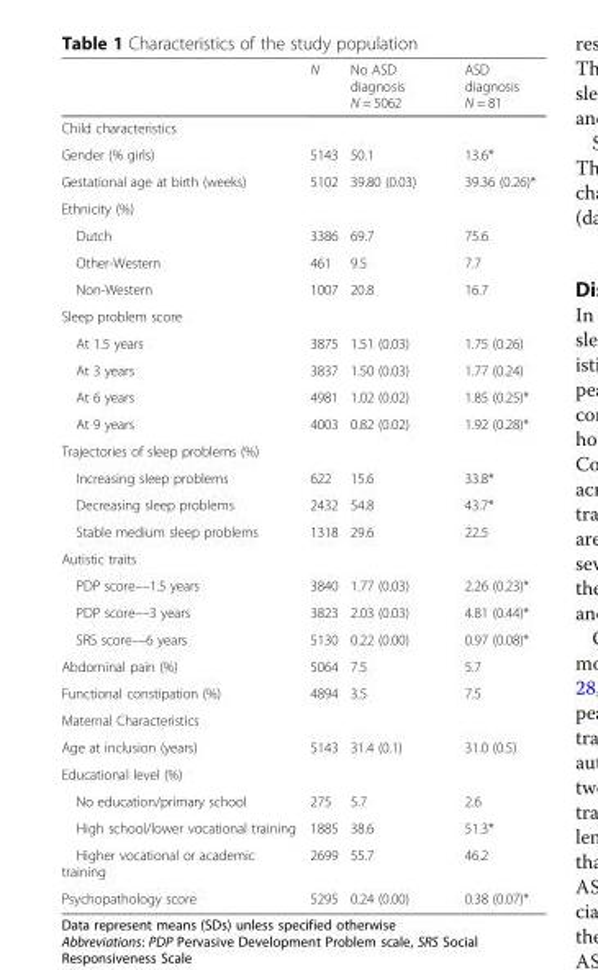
<table><thead><tr><td></td><td>N</td><td>No ASD diagnosis N = 5062</td><td>ASD diagnosis N = 81</td></tr></thead><tbody><tr><td colspan="4">Child characteristics</td></tr><tr><td>Gender (% girls)</td><td>5143</td><td>50.1</td><td>13.6*</td></tr><tr><td>Gestational age at birth (weeks)</td><td>5102</td><td>39.80 (0.03)</td><td>39.36 (0.26)*</td></tr><tr><td colspan="4">Ethnicity (%)</td></tr><tr><td>Dutch</td><td>3386</td><td>69.7</td><td>75.6</td></tr><tr><td>Other-Western</td><td>461</td><td>9.5</td><td>7.7</td></tr><tr><td>Non-Western</td><td>1007</td><td>20.8</td><td>16.7</td></tr><tr><td colspan="4">Sleep problem score</td></tr><tr><td>At 1.5 years</td><td>3875</td><td>1.51 (0.03)</td><td>1.75 (0.26)</td></tr><tr><td>At 3 years</td><td>3837</td><td>1.50 (0.03)</td><td>1.77 (0.24)</td></tr><tr><td>At 6 years</td><td>4981</td><td>1.02 (0.02)</td><td>1.85 (0.25)*</td></tr><tr><td>At 9 years</td><td>4003</td><td>0.82 (0.02)</td><td>1.92 (0.28)*</td></tr><tr><td colspan="4">Trajectories of sleep problems (%)</td></tr><tr><td>Increasing sleep problems</td><td>622</td><td>15.6</td><td>33.8*</td></tr><tr><td>Decreasing sleep problems</td><td>2432</td><td>54.8</td><td>43.7*</td></tr><tr><td>Stable medium sleep problems</td><td>1318</td><td>29.6</td><td>22.5</td></tr><tr><td colspan="4">Autistic traits</td></tr><tr><td>PDP score––1.5 years</td><td>3840</td><td>1.77 (0.03)</td><td>2.26 (0.23)*</td></tr><tr><td>PDP score––3 years</td><td>3823</td><td>2.03 (0.03)</td><td>4.81 (0.44)*</td></tr><tr><td>SRS score––6 years</td><td>5130</td><td>0.22 (0.00)</td><td>0.97 (0.08)*</td></tr><tr><td>Abdominal pain (%)</td><td>5064</td><td>7.5</td><td>5.7</td></tr><tr><td>Functional constipation (%)</td><td>4894</td><td>3.5</td><td>7.5</td></tr><tr><td colspan="4">Maternal Characteristics</td></tr><tr><td>Age at inclusion (years)</td><td>5143</td><td>31.4 (0.1)</td><td>31.0 (0.5)</td></tr><tr><td colspan="4">Educational level (%)</td></tr><tr><td>No education/primary school</td><td>275</td><td>5.7</td><td>2.6</td></tr><tr><td>High school/lower vocational training</td><td>1885</td><td>38.6</td><td>51.3*</td></tr><tr><td>Higher vocational or academic training</td><td>2699</td><td>55.7</td><td>46.2</td></tr><tr><td>Psychopathology score</td><td>5295</td><td>0.24 (0.00)</td><td>0.38 (0.07)*</td></tr></tbody></table>